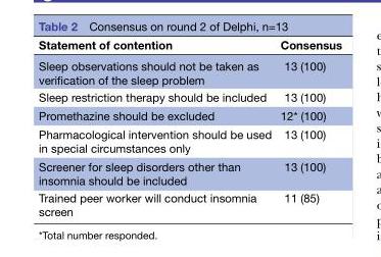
<table><thead><tr><td>Statement of contention</td><td>Consensus</td></tr></thead><tbody><tr><td>Sleep observations should not be taken as verification of the sleep problem</td><td>13 (100)</td></tr><tr><td>Sleep restriction therapy should be included</td><td>13 (100)</td></tr><tr><td>Promethazine should be excluded</td><td>12* (100)</td></tr><tr><td>Pharmacological intervention should be used in special circumstances only</td><td>13 (100)</td></tr><tr><td>Screener for sleep disorders other than insomnia should be included</td><td>13 (100)</td></tr><tr><td>Trained peer worker will conduct insomnia screen</td><td>11 (85)</td></tr></tbody></table>